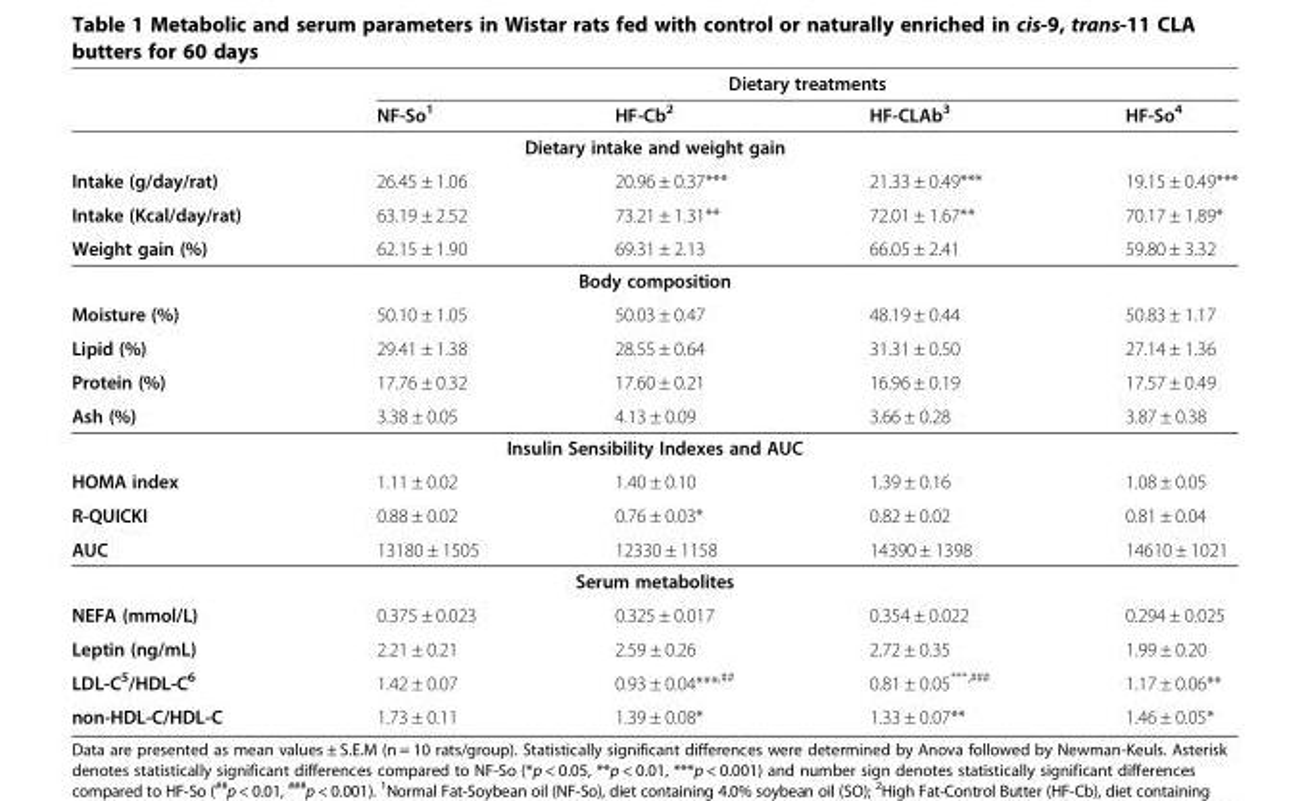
<table><thead><tr><td rowspan="2"></td><td colspan="4">Dietary treatments</td></tr><tr><td>NF-So<sup>1</sup></td><td>HF-Cb<sup>2</sup></td><td>HF-CLAb<sup>3</sup></td><td>HF-So<sup>4</sup></td></tr></thead><tbody><tr><td colspan="5">Dietary intake and weight gain</td></tr><tr><td>Intake (g/day/rat)</td><td>26.45 ± 1.06</td><td>20.96 ± 0.37***</td><td>21.33 ± 0.49***</td><td>19.15 ± 0.49***</td></tr><tr><td>Intake (Kcal/day/rat)</td><td>63.19 ± 2.52</td><td>73.21 ± 1.31**</td><td>72.01 ± 1.67**</td><td>70.17 ± 1.89*</td></tr><tr><td>Weight gain (%)</td><td>62.15 ± 1.90</td><td>69.31 ± 2.13</td><td>66.05 ± 2.41</td><td>59.80 ± 3.32</td></tr><tr><td colspan="5">Body composition</td></tr><tr><td>Moisture (%)</td><td>50.10 ± 1.05</td><td>50.03 ± 0.47</td><td>48.19 ± 0.44</td><td>50.83 ± 1.17</td></tr><tr><td>Lipid (%)</td><td>29.41 ± 1.38</td><td>28.55 ± 0.64</td><td>31.31 ± 0.50</td><td>27.14 ± 1.36</td></tr><tr><td>Protein (%)</td><td>17.76 ± 0.32</td><td>17.60 ± 0.21</td><td>16.96 ± 0.19</td><td>17.57 ± 0.49</td></tr><tr><td>Ash (%)</td><td>3.38 ± 0.05</td><td>4.13 ± 0.09</td><td>3.66 ± 0.28</td><td>3.87 ± 0.38</td></tr><tr><td colspan="5">Insulin Sensibility Indexes and AUC</td></tr><tr><td>HOMA index</td><td>1.11 ± 0.02</td><td>1.40 ± 0.10</td><td>1.39 ± 0.16</td><td>1.08 ± 0.05</td></tr><tr><td>R-QUICKI</td><td>0.88 ± 0.02</td><td>0.76 ± 0.03*</td><td>0.82 ± 0.02</td><td>0.81 ± 0.04</td></tr><tr><td>AUC</td><td>13180 ± 1505</td><td>12330 ± 1158</td><td>14390 ± 1398</td><td>14610 ± 1021</td></tr><tr><td colspan="5">Serum metabolites</td></tr><tr><td>NEFA (mmol/L)</td><td>0.375 ± 0.023</td><td>0.325 ± 0.017</td><td>0.354 ± 0.022</td><td>0.294 ± 0.025</td></tr><tr><td>Leptin (ng/mL)</td><td>2.21 ± 0.21</td><td>2.59 ± 0.26</td><td>2.72 ± 0.35</td><td>1.99 ± 0.20</td></tr><tr><td>LDL-C<sup>5</sup>/HDL-C<sup>6</sup></td><td>1.42 ± 0.07</td><td>0.93 ± 0.04***<sup>,##</sup></td><td>0.81 ± 0.05<sup>***,###</sup></td><td>1.17 ± 0.06**</td></tr><tr><td>non-HDL-C/HDL-C</td><td>1.73 ± 0.11</td><td>1.39 ± 0.08*</td><td>1.33 ± 0.07**</td><td>1.46 ± 0.05*</td></tr></tbody></table>